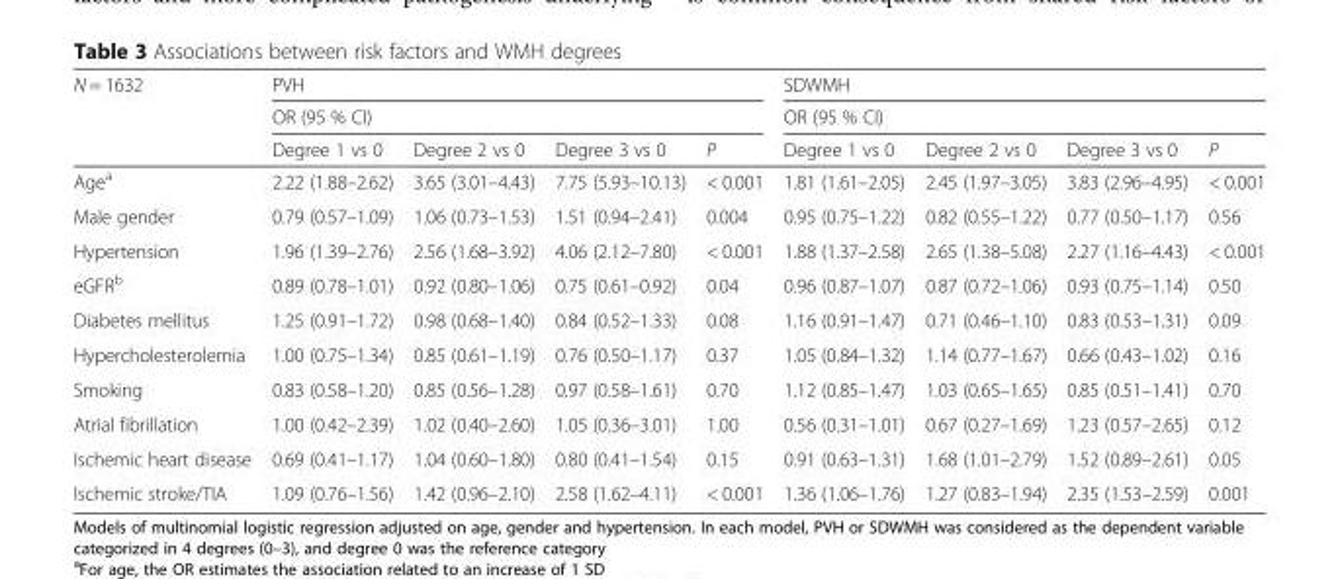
<table><thead><tr><td rowspan="3">N = 1632</td><td rowspan="2" colspan="4">PVH OR (95 % CI)</td><td rowspan="2" colspan="4">SDWMH OR (95 % CI)</td></tr><tr></tr><tr><td>Degree 1 vs 0</td><td>Degree 2 vs 0</td><td>Degree 3 vs 0</td><td>P</td><td>Degree 1 vs 0</td><td>Degree 2 vs 0</td><td>Degree 3 vs 0</td><td>P</td></tr></thead><tbody><tr><td>Age<sup>a</sup></td><td>2.22 (1.88–2.62)</td><td>3.65 (3.01–4.43)</td><td>7.75 (5.93–10.13)</td><td>&lt; 0.001</td><td>1.81 (1.61–2.05)</td><td>2.45 (1.97–3.05)</td><td>3.83 (2.96–4.95)</td><td>&lt; 0.001</td></tr><tr><td>Male gender</td><td>0.79 (0.57–1.09)</td><td>1.06 (0.73–1.53)</td><td>1.51 (0.94–2.41)</td><td>0.004</td><td>0.95 (0.75–1.22)</td><td>0.82 (0.55–1.22)</td><td>0.77 (0.50–1.17)</td><td>0.56</td></tr><tr><td>Hypertension</td><td>1.96 (1.39–2.76)</td><td>2.56 (1.68–3.92)</td><td>4.06 (2.12–7.80)</td><td>&lt; 0.001</td><td>1.88 (1.37–2.58)</td><td>2.65 (1.38–5.08)</td><td>2.27 (1.16–4.43)</td><td>&lt; 0.001</td></tr><tr><td>eGFR<sup>b</sup></td><td>0.89 (0.78–1.01)</td><td>0.92 (0.80–1.06)</td><td>0.75 (0.61–0.92)</td><td>0.04</td><td>0.96 (0.87–1.07)</td><td>0.87 (0.72–1.06)</td><td>0.93 (0.75–1.14)</td><td>0.50</td></tr><tr><td>Diabetes mellitus</td><td>1.25 (0.91–1.72)</td><td>0.98 (0.68–1.40)</td><td>0.84 (0.52–1.33)</td><td>0.08</td><td>1.16 (0.91–1.47)</td><td>0.71 (0.46–1.10)</td><td>0.83 (0.53–1.31)</td><td>0.09</td></tr><tr><td>Hypercholesterolemia</td><td>1.00 (0.75–1.34)</td><td>0.85 (0.61–1.19)</td><td>0.76 (0.50–1.17)</td><td>0.37</td><td>1.05 (0.84–1.32)</td><td>1.14 (0.77–1.67)</td><td>0.66 (0.43–1.02)</td><td>0.16</td></tr><tr><td>Smoking</td><td>0.83 (0.58–1.20)</td><td>0.85 (0.56–1.28)</td><td>0.97 (0.58–1.61)</td><td>0.70</td><td>1.12 (0.85–1.47)</td><td>1.03 (0.65–1.65)</td><td>0.85 (0.51–1.41)</td><td>0.70</td></tr><tr><td>Atrial fibrillation</td><td>1.00 (0.42–2.39)</td><td>1.02 (0.40–2.60)</td><td>1.05 (0.36–3.01)</td><td>1.00</td><td>0.56 (0.31–1.01)</td><td>0.67 (0.27–1.69)</td><td>1.23 (0.57–2.65)</td><td>0.12</td></tr><tr><td>Ischemic heart disease</td><td>0.69 (0.41–1.17)</td><td>1.04 (0.60–1.80)</td><td>0.80 (0.41–1.54)</td><td>0.15</td><td>0.91 (0.63–1.31)</td><td>1.68 (1.01–2.79)</td><td>1.52 (0.89–2.61)</td><td>0.05</td></tr><tr><td>Ischemic stroke/TIA</td><td>1.09 (0.76–1.56)</td><td>1.42 (0.96–2.10)</td><td>2.58 (1.62–4.11)</td><td>&lt; 0.001</td><td>1.36 (1.06–1.76)</td><td>1.27 (0.83–1.94)</td><td>2.35 (1.53–2.59)</td><td>0.001</td></tr></tbody></table>